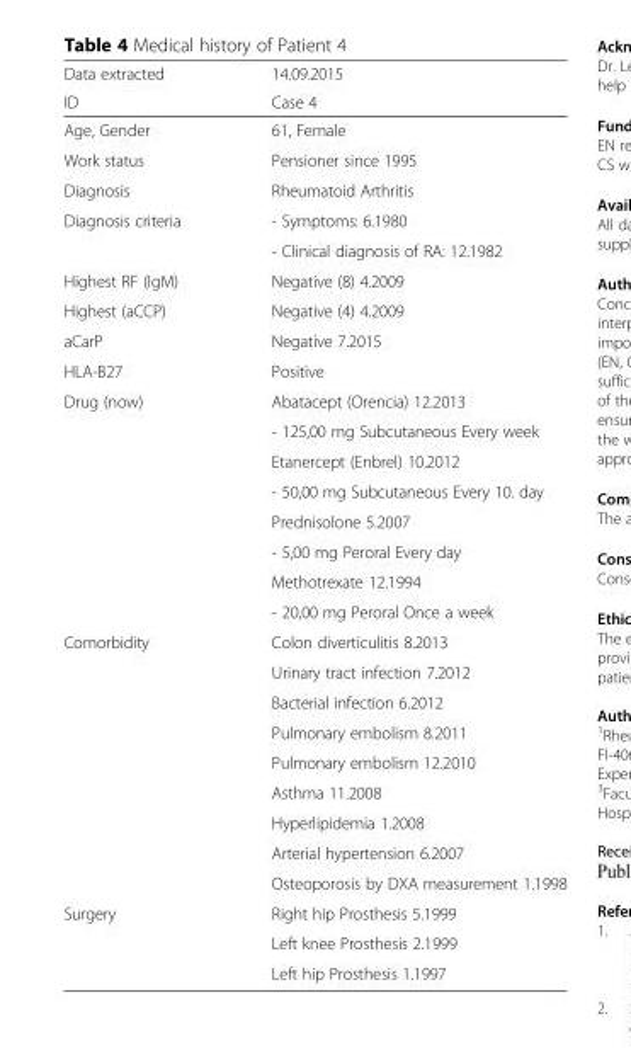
<table><thead><tr><td rowspan="2">Data extracted ID</td><td rowspan="2">14.09.2015 Case 4</td></tr><tr></tr></thead><tbody><tr><td>Age, Gender</td><td>61, Female</td></tr><tr><td>Work status</td><td>Pensioner since 1995</td></tr><tr><td>Diagnosis</td><td>Rheumatoid Arthritis</td></tr><tr><td rowspan="2">Diagnosis criteria</td><td>- Symptoms: 6.1980</td></tr><tr><td>- Clinical diagnosis of RA: 12.1982</td></tr><tr><td>Highest RF (IgM)</td><td>Negative (8) 4.2009</td></tr><tr><td>Highest (aCCP)</td><td>Negative (4) 4.2009</td></tr><tr><td>aCarP</td><td>Negative 7.2015</td></tr><tr><td>HLA-B27</td><td>Positive</td></tr><tr><td rowspan="8">Drug (now)</td><td>Abatacept (Orencia) 12.2013</td></tr><tr><td>- 125,00 mg Subcutaneous Every week</td></tr><tr><td>Etanercept (Enbrel) 10.2012</td></tr><tr><td>- 50,00 mg Subcutaneous Every 10. day</td></tr><tr><td>Prednisolone 5.2007</td></tr><tr><td>- 5,00 mg Peroral Every day</td></tr><tr><td>Methotrexate 12.1994</td></tr><tr><td>- 20,00 mg Peroral Once a week</td></tr><tr><td rowspan="9">Comorbidity</td><td>Colon diverticulitis 8.2013</td></tr><tr><td>Urinary tract infection 7.2012</td></tr><tr><td>Bacterial infection 6.2012</td></tr><tr><td>Pulmonary embolism 8.2011</td></tr><tr><td>Pulmonary embolism 12.2010</td></tr><tr><td>Asthma 11.2008</td></tr><tr><td>Hyperlipidemia 1.2008</td></tr><tr><td>Arterial hypertension 6.2007</td></tr><tr><td>Osteoporosis by DXA measurement 1.1998</td></tr><tr><td rowspan="3">Surgery</td><td>Right hip Prosthesis 5.1999</td></tr><tr><td>Left knee Prosthesis 2.1999</td></tr><tr><td>Left hip Prosthesis 1.1997</td></tr></tbody></table>